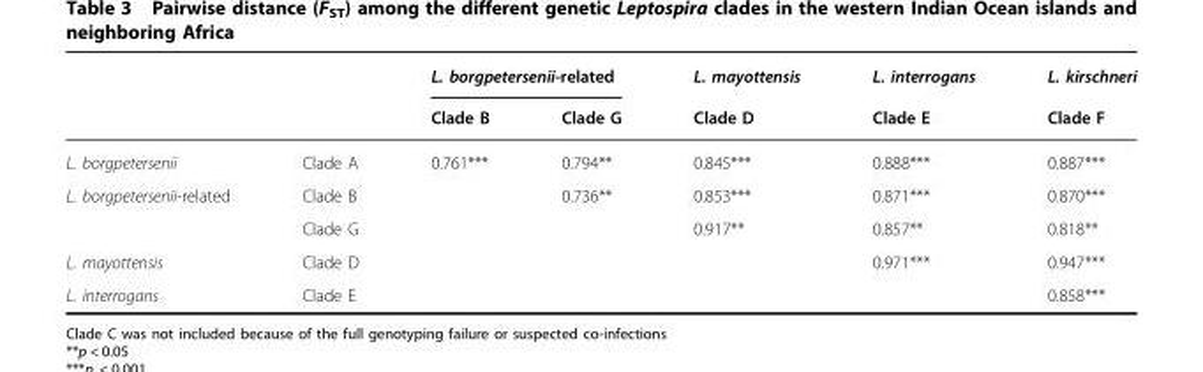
<table><thead><tr><td rowspan="2"></td><td rowspan="2"></td><td colspan="2">L. borgpetersenii-related</td><td rowspan="2">L. mayottensis Clade D</td><td rowspan="2">L. interrogans Clade E</td><td rowspan="2">L. kirschneri Clade F</td></tr><tr><td>Clade B</td><td>Clade G</td></tr></thead><tbody><tr><td>L. borgpetersenii</td><td>Clade A</td><td>0.761***</td><td>0.794**</td><td>0.845***</td><td>0.888***</td><td>0.887***</td></tr><tr><td rowspan="2">L. borgpetersenii-related</td><td>Clade B</td><td></td><td>0.736**</td><td>0.853***</td><td>0.871***</td><td>0.870***</td></tr><tr><td>Clade G</td><td></td><td></td><td>0.917**</td><td>0.857**</td><td>0.818**</td></tr><tr><td>L. mayottensis</td><td>Clade D</td><td></td><td></td><td></td><td>0.971***</td><td>0.947***</td></tr><tr><td>L. interrogans</td><td>Clade E</td><td></td><td></td><td></td><td></td><td>0.858***</td></tr></tbody></table>